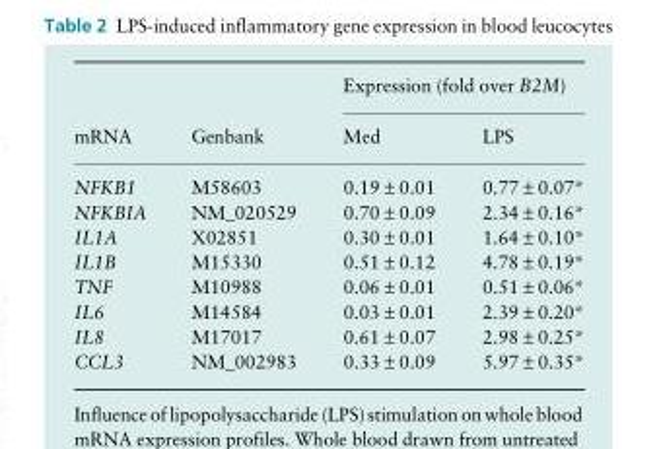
<table><thead><tr><td rowspan="2">mRNA</td><td rowspan="2">Genbank</td><td colspan="2">Expression (fold over B2M)</td></tr><tr><td>Med</td><td>LPS</td></tr></thead><tbody><tr><td>NFKB1</td><td>M58603</td><td>0.19 ± 0.01</td><td>0.77 ± 0.07*</td></tr><tr><td>NFKBIA</td><td>NM_020529</td><td>0.70 ± 0.09</td><td>2.34 ± 0.16*</td></tr><tr><td>IL1A</td><td>X02851</td><td>0.30 ± 0.01</td><td>1.64 ± 0.10*</td></tr><tr><td>IL1B</td><td>M15330</td><td>0.51 ± 0.12</td><td>4.78 ± 0.19*</td></tr><tr><td>TNF</td><td>M10988</td><td>0.06 ± 0.01</td><td>0.51 ± 0.06*</td></tr><tr><td>IL6</td><td>M14584</td><td>0.03 ± 0.01</td><td>2.39 ± 0.20*</td></tr><tr><td>IL8</td><td>M17017</td><td>0.61 ± 0.07</td><td>2.98 ± 0.25*</td></tr><tr><td>CCL3</td><td>NM_002983</td><td>0.33 ± 0.09</td><td>5.97 ± 0.35*</td></tr></tbody></table>